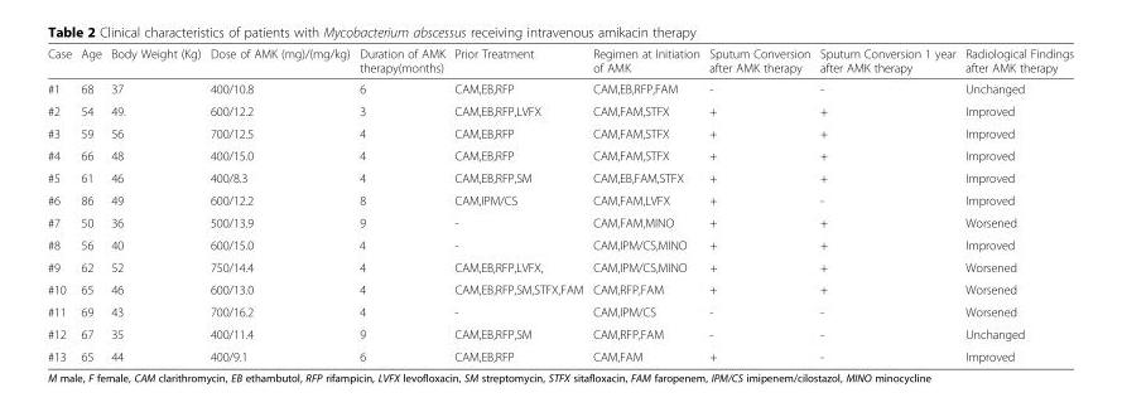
<table><thead><tr><td>Case</td><td>Age</td><td>Body Weight (Kg)</td><td>Dose of AMK (mg)/(mg/kg)</td><td>Duration of AMK therapy(months)</td><td>Prior Treatment</td><td>Regimen at Initiation of AMK</td><td>Sputum Conversion after AMK therapy</td><td>Sputum Conversion 1 year after AMK therapy</td><td>Radiological Findings after AMK therapy</td></tr></thead><tbody><tr><td>#1</td><td>68</td><td>37</td><td>400/10.8</td><td>6</td><td>CAM,EB,RFP</td><td>CAM,EB,RFP,FAM</td><td>-</td><td>-</td><td>Unchanged</td></tr><tr><td>#2</td><td>54</td><td>49.</td><td>600/12.2</td><td>3</td><td>CAM,EB,RFP,LVFX</td><td>CAM,FAM,STFX</td><td>+</td><td>+</td><td>Improved</td></tr><tr><td>#3</td><td>59</td><td>56</td><td>700/12.5</td><td>4</td><td>CAM,EB,RFP</td><td>CAM,FAM,STFX</td><td>+</td><td>+</td><td>Improved</td></tr><tr><td>#4</td><td>66</td><td>48</td><td>400/15.0</td><td>4</td><td>CAM,EB,RFP</td><td>CAM,FAM,STFX</td><td>+</td><td>+</td><td>Improved</td></tr><tr><td>#5</td><td>61</td><td>46</td><td>400/8.3</td><td>4</td><td>CAM,EB,RFP,SM</td><td>CAM,EB,FAM,STFX</td><td>+</td><td>+</td><td>Improved</td></tr><tr><td>#6</td><td>86</td><td>49</td><td>600/12.2</td><td>8</td><td>CAM,IPM/CS</td><td>CAM,FAM,LVFX</td><td>+</td><td>-</td><td>Improved</td></tr><tr><td>#7</td><td>50</td><td>36</td><td>500/13.9</td><td>9</td><td>-</td><td>CAM,FAM,MINO</td><td>+</td><td>+</td><td>Worsened</td></tr><tr><td>#8</td><td>56</td><td>40</td><td>600/15.0</td><td>4</td><td>-</td><td>CAM,IPM/CS,MINO</td><td>+</td><td>+</td><td>Improved</td></tr><tr><td>#9</td><td>62</td><td>52</td><td>750/14.4</td><td>4</td><td>CAM,EB,RFP,LVFX,</td><td>CAM,IPM/CS,MINO</td><td>+</td><td>+</td><td>Worsened</td></tr><tr><td>#10</td><td>65</td><td>46</td><td>600/13.0</td><td>4</td><td>CAM,EB,RFP,SM,STFX,FAM</td><td>CAM,RFP,FAM</td><td>+</td><td>+</td><td>Worsened</td></tr><tr><td>#11</td><td>69</td><td>43</td><td>700/16.2</td><td>4</td><td>-</td><td>CAM,IPM/CS</td><td>-</td><td>-</td><td>Worsened</td></tr><tr><td>#12</td><td>67</td><td>35</td><td>400/11.4</td><td>9</td><td>CAM,EB,RFP,SM</td><td>CAM,RFP,FAM</td><td>-</td><td>-</td><td>Unchanged</td></tr><tr><td>#13</td><td>65</td><td>44</td><td>400/9.1</td><td>6</td><td>CAM,EB,RFP</td><td>CAM,FAM</td><td>+</td><td>-</td><td>Improved</td></tr></tbody></table>